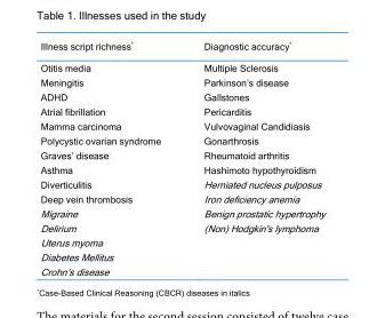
<table><thead><tr><td>Illness script richness*</td><td>Diagnostic accuracy*</td></tr></thead><tbody><tr><td>Otitis media</td><td>Multiple Sclerosis</td></tr><tr><td>Meningitis</td><td>Parkinson’s disease</td></tr><tr><td>ADHD</td><td>Gallstones</td></tr><tr><td>Atrial fibrillation</td><td>Pericarditis</td></tr><tr><td>Mamma carcinoma</td><td>Vulvovaginal Candidiasis</td></tr><tr><td>Polycystic ovarian syndrome</td><td>Gonarthrosis</td></tr><tr><td>Graves’ disease</td><td>Rheumatoid arthritis</td></tr><tr><td>Asthma</td><td>Hashimoto hypothyroidism</td></tr><tr><td>Diverticulitis</td><td>Herniated nucleus pulposus</td></tr><tr><td>Deep vein thrombosis</td><td>Iron deficiency anemia</td></tr><tr><td>Migraine</td><td>Benign prostatic hypertrophy</td></tr><tr><td>Delirium</td><td>(Non) Hodgkin&#x27;s lymphoma</td></tr><tr><td colspan="2">Uterus myoma</td></tr><tr><td colspan="2">Diabetes Mellitus</td></tr><tr><td>Crohn’s disease</td><td></td></tr></tbody></table>